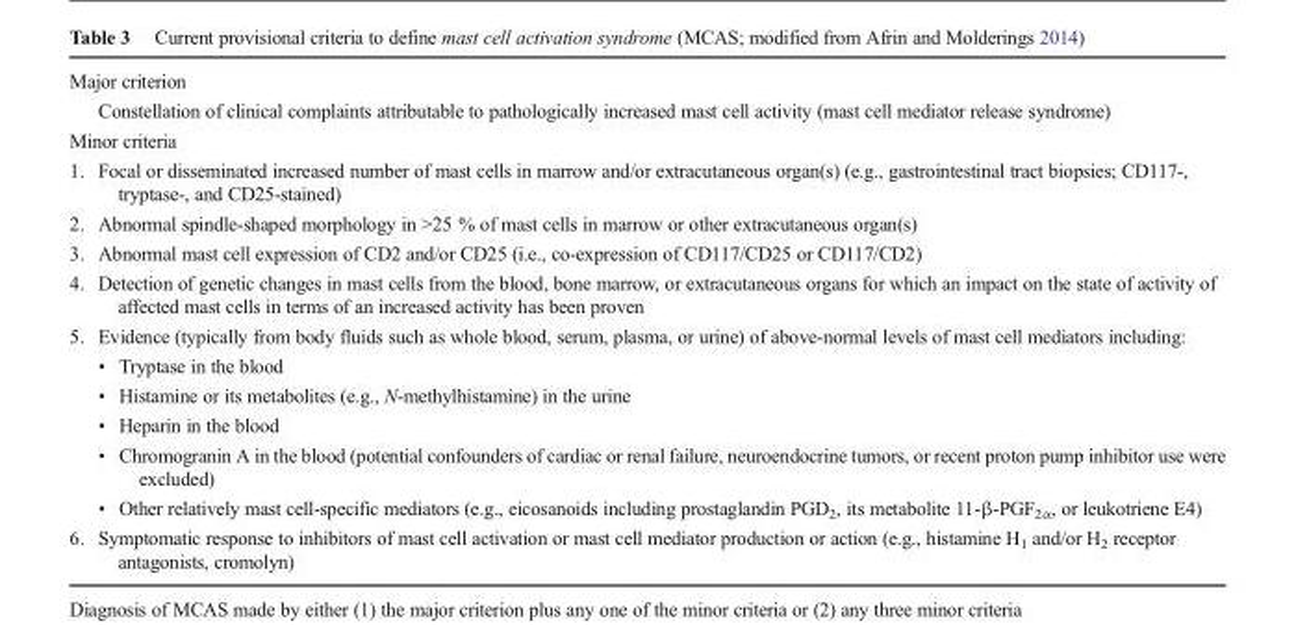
<table><tbody><tr><td colspan="3">Major criterion</td></tr><tr><td></td><td colspan="2">Constellation of clinical complaints attributable to pathologically increased mast cell activity (mast cell mediator release syndrome)</td></tr><tr><td colspan="3">Minor criteria</td></tr><tr><td>1.</td><td colspan="2">Focal or disseminated increased number of mast cells in marrow and/or extracutaneous organ(s) (e.g., gastrointestinal tract biopsies; CD117-, tryptase-, and CD25-stained)</td></tr><tr><td>2.</td><td colspan="2">Abnormal spindle-shaped morphology in &gt;25 % of mast cells in marrow or other extracutaneous organ(s)</td></tr><tr><td>3.</td><td colspan="2">Abnormal mast cell expression of CD2 and/or CD25 (i.e., co-expression of CD117/CD25 or CD117/CD2)</td></tr><tr><td>4.</td><td colspan="2">Detection of genetic changes in mast cells from the blood, bone marrow, or extracutaneous organs for which an impact on the state of activity of affected mast cells in terms of an increased activity has been proven</td></tr><tr><td rowspan="6">5.</td><td colspan="2">Evidence (typically from body fluids such as whole blood, serum, plasma, or urine) of above-normal levels of mast cell mediators including:</td></tr><tr><td>•</td><td>Tryptase in the blood</td></tr><tr><td>•</td><td>Histamine or its metabolites (e.g., N-methylhistamine) in the urine</td></tr><tr><td>•</td><td>Heparin in the blood</td></tr><tr><td>•</td><td>Chromogranin A in the blood (potential confounders of cardiac or renal failure, neuroendocrine tumors, or recent proton pump inhibitor use were excluded)</td></tr><tr><td>•</td><td>Other relatively mast cell-specific mediators (e.g., eicosanoids including prostaglandin PGD<sub>2</sub>, its metabolite 11-β-PGF<sub>2α</sub>, or leukotriene E4)</td></tr><tr><td>6.</td><td colspan="2">Symptomatic response to inhibitors of mast cell activation or mast cell mediator production or action (e.g., histamine H<sub>1</sub> and/or H<sub>2</sub> receptor antagonists, cromolyn)</td></tr></tbody></table>